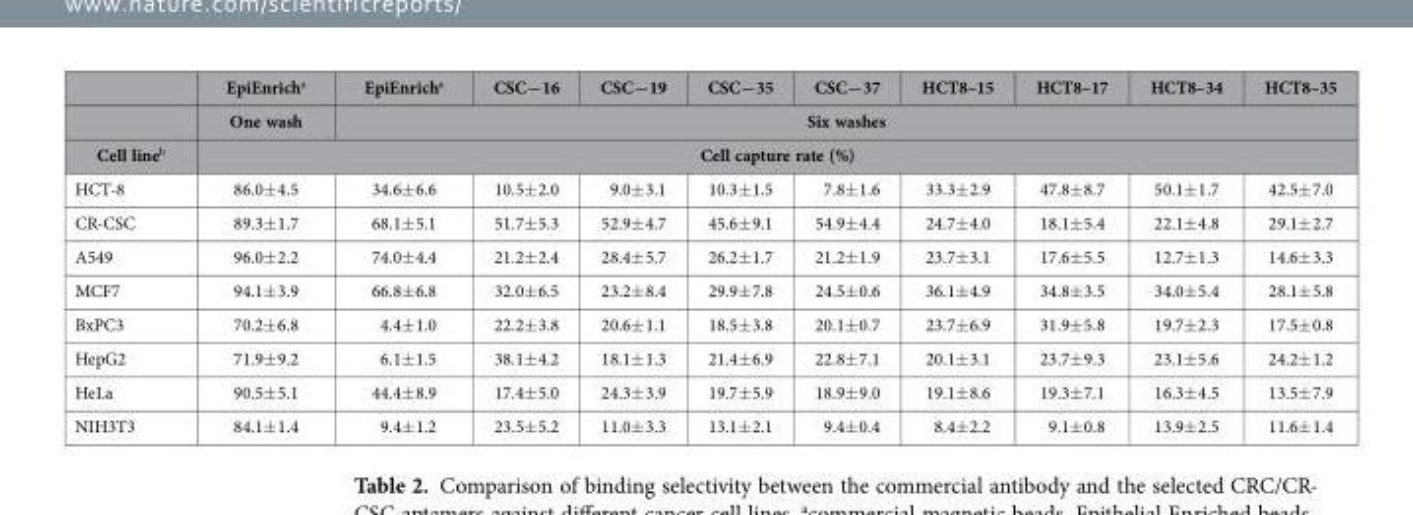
<table><thead><tr><td rowspan="3">Cell line<sup>b</sup></td><td rowspan="2">EpiEnrich<sup>a</sup> One wash</td><td>EpiEnrich<sup>a</sup></td><td>CSC−16</td><td>CSC−19</td><td>CSC−35</td><td>CSC−37</td><td>HCT8–15</td><td>HCT8–17</td><td>HCT8–34</td><td>HCT8–35</td></tr><tr><td colspan="9">Six washes</td></tr><tr><td colspan="10">Cell capture rate (%)</td></tr></thead><tbody><tr><td>HCT-8</td><td>86.0± 4.5</td><td>34.6± 6.6</td><td>10.5± 2.0</td><td>9.0± 3.1</td><td>10.3± 1.5</td><td>7.8± 1.6</td><td>33.3± 2.9</td><td>47.8± 8.7</td><td>50.1± 1.7</td><td>42.5± 7.0</td></tr><tr><td>CR-CSC</td><td>89.3± 1.7</td><td>68.1± 5.1</td><td>51.7± 5.3</td><td>52.9± 4.7</td><td>45.6± 9.1</td><td>54.9± 4.4</td><td>24.7± 4.0</td><td>18.1± 5.4</td><td>22.1± 4.8</td><td>29.1± 2.7</td></tr><tr><td>A549</td><td>96.0± 2.2</td><td>74.0± 4.4</td><td>21.2± 2.4</td><td>28.4± 5.7</td><td>26.2± 1.7</td><td>21.2± 1.9</td><td>23.7± 3.1</td><td>17.6± 5.5</td><td>12.7± 1.3</td><td>14.6± 3.3</td></tr><tr><td>MCF7</td><td>94.1± 3.9</td><td>66.8± 6.8</td><td>32.0± 6.5</td><td>23.2± 8.4</td><td>29.9± 7.8</td><td>24.5± 0.6</td><td>36.1± 4.9</td><td>34.8± 3.5</td><td>34.0± 5.4</td><td>28.1± 5.8</td></tr><tr><td>BxPC3</td><td>70.2± 6.8</td><td>4.4± 1.0</td><td>22.2± 3.8</td><td>20.6± 1.1</td><td>18.5± 3.8</td><td>20.1± 0.7</td><td>23.7± 6.9</td><td>31.9± 5.8</td><td>19.7± 2.3</td><td>17.5± 0.8</td></tr><tr><td>HepG2</td><td>71.9± 9.2</td><td>6.1± 1.5</td><td>38.1± 4.2</td><td>18.1± 1.3</td><td>21.4± 6.9</td><td>22.8± 7.1</td><td>20.1± 3.1</td><td>23.7± 9.3</td><td>23.1± 5.6</td><td>24.2± 1.2</td></tr><tr><td>HeLa</td><td>90.5± 5.1</td><td>44.4± 8.9</td><td>17.4± 5.0</td><td>24.3± 3.9</td><td>19.7± 5.9</td><td>18.9± 9.0</td><td>19.1± 8.6</td><td>19.3± 7.1</td><td>16.3± 4.5</td><td>13.5± 7.9</td></tr><tr><td>NIH3T3</td><td>84.1± 1.4</td><td>9.4± 1.2</td><td>23.5± 5.2</td><td>11.0± 3.3</td><td>13.1± 2.1</td><td>9.4± 0.4</td><td>8.4± 2.2</td><td>9.1± 0.8</td><td>13.9± 2.5</td><td>11.6± 1.4</td></tr></tbody></table>